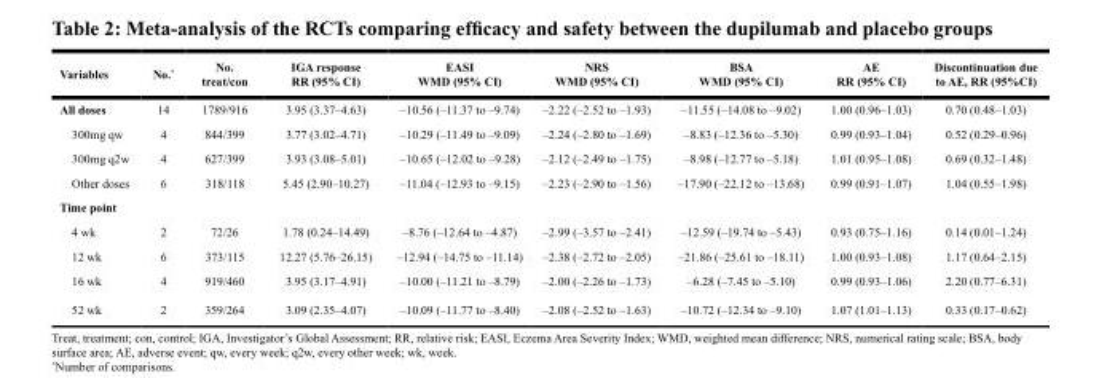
<table><thead><tr><td>Variables</td><td>No.*</td><td>No. treat/con</td><td>IGA response RR (95% CI)</td><td>EASI WMD (95% CI)</td><td>NRS WMD (95% CI)</td><td>BSA WMD (95% CI)</td><td>AE RR (95% CI)</td><td>Discontinuation due to AE, RR (95%CI)</td></tr></thead><tbody><tr><td>All doses</td><td>14</td><td>1789/916</td><td>3.95 (3.37–4.63)</td><td>–10.56 (–11.37 to –9.74)</td><td>–2.22 (–2.52 to –1.93)</td><td>–11.55 (–14.08 to –9.02)</td><td>1.00 (0.96–1.03)</td><td>0.70 (0.48–1.03)</td></tr><tr><td>300mg qw</td><td>4</td><td>844/399</td><td>3.77 (3.02–4.71)</td><td>–10.29 (–11.49 to –9.09)</td><td>–2.24 (–2.80 to –1.69)</td><td>–8.83 (–12.36 to –5.30)</td><td>0.99 (0.93–1.04)</td><td>0.52 (0.29–0.96)</td></tr><tr><td>300mg q2w</td><td>4</td><td>627/399</td><td>3.93 (3.08–5.01)</td><td>–10.65 (–12.02 to –9.28)</td><td>–2.12 (–2.49 to –1.75)</td><td>–8.98 (–12.77 to –5.18)</td><td>1.01 (0.95–1.08)</td><td>0.69 (0.32–1.48)</td></tr><tr><td>Other doses</td><td>6</td><td>318/118</td><td>5.45 (2.90–10.27)</td><td>–11.04 (–12.93 to –9.15)</td><td>–2.23 (–2.90 to –1.56)</td><td>–17.90 (–22.12 to –13.68)</td><td>0.99 (0.91–1.07)</td><td>1.04 (0.55–1.98)</td></tr><tr><td colspan="9">Time point</td></tr><tr><td>4 wk</td><td>2</td><td>72/26</td><td>1.78 (0.24–14.49)</td><td>–8.76 (–12.64 to –4.87)</td><td>–2.99 (–3.57 to –2.41)</td><td>–12.59 (–19.74 to –5.43)</td><td>0.93 (0.75–1.16)</td><td>0.14 (0.01–1.24)</td></tr><tr><td>12 wk</td><td>6</td><td>373/115</td><td>12.27 (5.76–26.15)</td><td>–12.94 (–14.75 to –11.14)</td><td>–2.38 (–2.72 to –2.05)</td><td>–21.86 (–25.61 to –18.11)</td><td>1.00 (0.93–1.08)</td><td>1.17 (0.64–2.15)</td></tr><tr><td>16 wk</td><td>4</td><td>919/460</td><td>3.95 (3.17–4.91)</td><td>–10.00 (–11.21 to –8.79)</td><td>–2.00 (–2.26 to –1.73)</td><td>–6.28 (–7.45 to –5.10)</td><td>0.99 (0.93–1.06)</td><td>2.20 (0.77–6.31)</td></tr><tr><td>52 wk</td><td>2</td><td>359/264</td><td>3.09 (2.35–4.07)</td><td>–10.09 (–11.77 to –8.40)</td><td>–2.08 (–2.52 to –1.63)</td><td>–10.72 (–12.34 to –9.10)</td><td>1.07 (1.01–1.13)</td><td>0.33 (0.17–0.62)</td></tr></tbody></table>